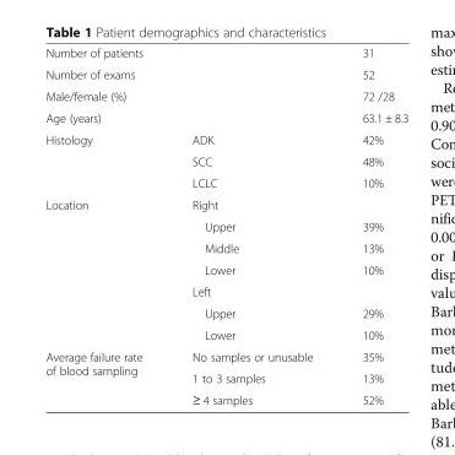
<table><tbody><tr><td colspan="2">Number of patients</td><td>31</td></tr><tr><td colspan="2">Number of exams</td><td>52</td></tr><tr><td colspan="2">Male/female (%)</td><td>72 /28</td></tr><tr><td colspan="2">Age (years)</td><td>63.1 ± 8.3</td></tr><tr><td rowspan="3">Histology</td><td>ADK</td><td>42%</td></tr><tr><td>SCC</td><td>48%</td></tr><tr><td>LCLC</td><td>10%</td></tr><tr><td rowspan="7">Location</td><td colspan="2">Right</td></tr><tr><td>Upper</td><td>39%</td></tr><tr><td>Middle</td><td>13%</td></tr><tr><td>Lower</td><td>10%</td></tr><tr><td colspan="2">Left</td></tr><tr><td>Upper</td><td>29%</td></tr><tr><td>Lower</td><td>10%</td></tr><tr><td rowspan="3">Average failure rate of blood sampling</td><td>No samples or unusable</td><td>35%</td></tr><tr><td>1 to 3 samples</td><td>13%</td></tr><tr><td>≥ 4 samples</td><td>52%</td></tr></tbody></table>